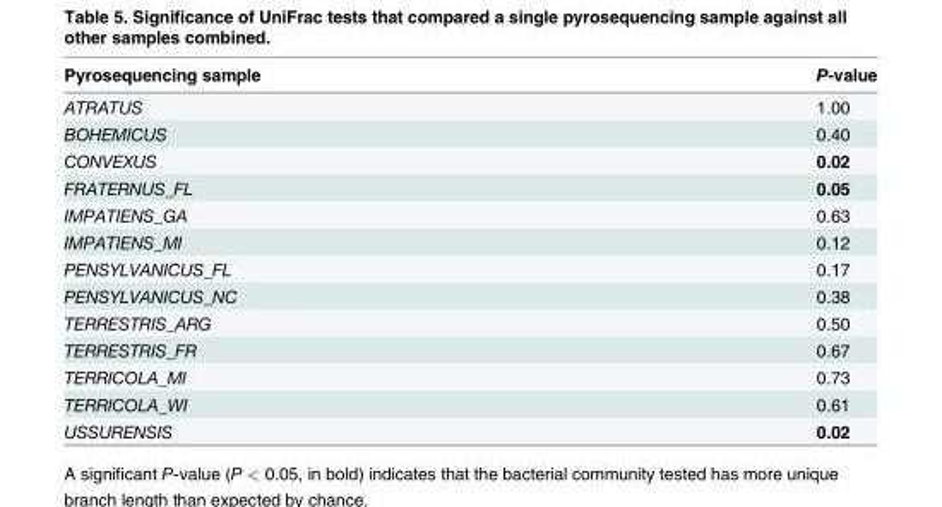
<table><thead><tr><td>Pyrosequencing sample</td><td>P-value</td></tr></thead><tbody><tr><td>ATRATUS</td><td>1.00</td></tr><tr><td>BOHEMICUS</td><td>0.40</td></tr><tr><td>CONVEXUS</td><td>0.02</td></tr><tr><td>FRATERNUS_FL</td><td>0.05</td></tr><tr><td>IMPATIENS_GA</td><td>0.63</td></tr><tr><td>IMPATIENS_MI</td><td>0.12</td></tr><tr><td>PENSYLVANICUS_FL</td><td>0.17</td></tr><tr><td>PENSYLVANICUS_NC</td><td>0.38</td></tr><tr><td>TERRESTRIS_ARG</td><td>0.50</td></tr><tr><td>TERRESTRIS_FR</td><td>0.67</td></tr><tr><td>TERRICOLA_MI</td><td>0.73</td></tr><tr><td>TERRICOLA_WI</td><td>0.61</td></tr><tr><td>USSURENSIS</td><td>0.02</td></tr></tbody></table>